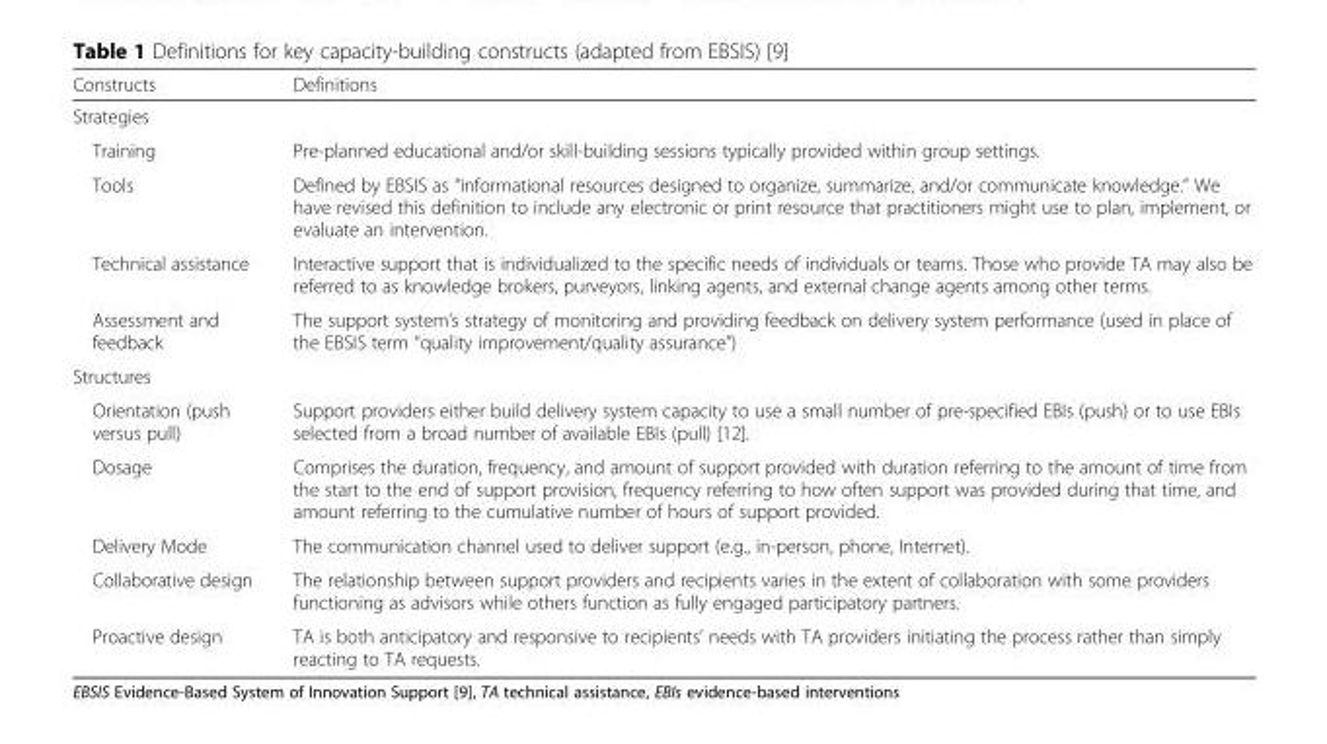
<table><thead><tr><td>Constructs</td><td>Definitions</td></tr></thead><tbody><tr><td colspan="2">Strategies</td></tr><tr><td>Training</td><td>Pre-planned educational and/or skill-building sessions typically provided within group settings.</td></tr><tr><td>Tools</td><td>Defined by EBSIS as “informational resources designed to organize, summarize, and/or communicate knowledge.” We have revised this definition to include any electronic or print resource that practitioners might use to plan, implement, or evaluate an intervention.</td></tr><tr><td>Technical assistance</td><td>Interactive support that is individualized to the specific needs of individuals or teams. Those who provide TA may also be referred to as knowledge brokers, purveyors, linking agents, and external change agents among other terms.</td></tr><tr><td>Assessment and feedback</td><td>The support system’s strategy of monitoring and providing feedback on delivery system performance (used in place of the EBSIS term “quality improvement/quality assurance”)</td></tr><tr><td colspan="2">Structures</td></tr><tr><td>Orientation (push versus pull)</td><td>Support providers either build delivery system capacity to use a small number of pre-specified EBIs (push) or to use EBIs selected from a broad number of available EBIs (pull) [12].</td></tr><tr><td>Dosage</td><td>Comprises the duration, frequency, and amount of support provided with duration referring to the amount of time from the start to the end of support provision, frequency referring to how often support was provided during that time, and amount referring to the cumulative number of hours of support provided.</td></tr><tr><td>Delivery Mode</td><td>The communication channel used to deliver support (e.g., in-person, phone, Internet).</td></tr><tr><td>Collaborative design</td><td>The relationship between support providers and recipients varies in the extent of collaboration with some providers functioning as advisors while others function as fully engaged participatory partners.</td></tr><tr><td>Proactive design</td><td>TA is both anticipatory and responsive to recipients’ needs with TA providers initiating the process rather than simply reacting to TA requests.</td></tr></tbody></table>